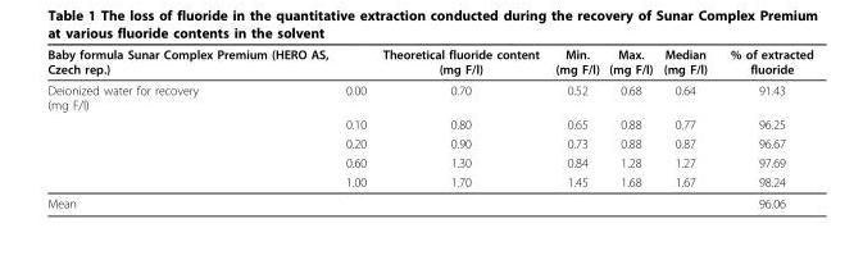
<table><thead><tr><td>Baby formula Sunar Complex Premium (HERO AS, Czech rep.)</td><td></td><td>Theoretical fluoride content (mg F/l)</td><td>Min. (mg F/l)</td><td>Max. (mg F/l)</td><td>Median (mg F/l)</td><td>% of extracted fluoride</td></tr></thead><tbody><tr><td rowspan="5">Deionized water for recovery (mg F/l)</td><td>0.00</td><td>0.70</td><td>0.52</td><td>0.68</td><td>0.64</td><td>91.43</td></tr><tr><td>0.10</td><td>0.80</td><td>0.65</td><td>0.88</td><td>0.77</td><td>96.25</td></tr><tr><td>0.20</td><td>0.90</td><td>0.73</td><td>0.88</td><td>0.87</td><td>96.67</td></tr><tr><td>0.60</td><td>1.30</td><td>0.84</td><td>1.28</td><td>1.27</td><td>97.69</td></tr><tr><td>1.00</td><td>1.70</td><td>1.45</td><td>1.68</td><td>1.67</td><td>98.24</td></tr><tr><td>Mean</td><td></td><td></td><td></td><td></td><td></td><td>96.06</td></tr></tbody></table>